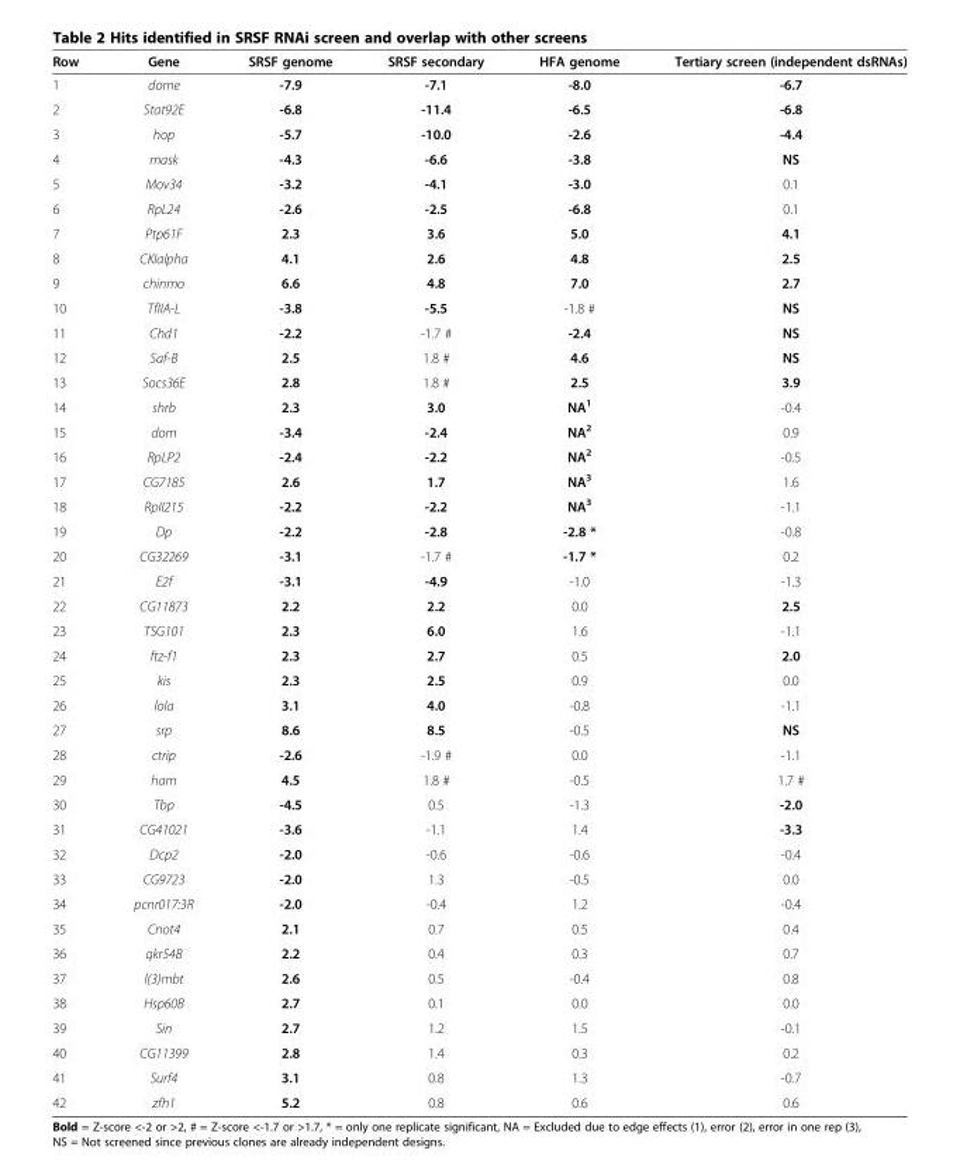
<table><thead><tr><td>Row</td><td>Gene</td><td>SRSF genome</td><td>SRSF secondary</td><td>HFA genome</td><td>Tertiary screen (independent dsRNAs)</td></tr></thead><tbody><tr><td>1</td><td>dome</td><td>-7.9</td><td>-7.1</td><td>-8.0</td><td>-6.7</td></tr><tr><td>2</td><td>Stat92E</td><td>-6.8</td><td>-11.4</td><td>-6.5</td><td>-6.8</td></tr><tr><td>3</td><td>hop</td><td>-5.7</td><td>-10.0</td><td>-2.6</td><td>-4.4</td></tr><tr><td>4</td><td>mask</td><td>-4.3</td><td>-6.6</td><td>-3.8</td><td>NS</td></tr><tr><td>5</td><td>Mov34</td><td>-3.2</td><td>-4.1</td><td>-3.0</td><td>0.1</td></tr><tr><td>6</td><td>RpL24</td><td>-2.6</td><td>-2.5</td><td>-6.8</td><td>0.1</td></tr><tr><td>7</td><td>Ptp61F</td><td>2.3</td><td>3.6</td><td>5.0</td><td>4.1</td></tr><tr><td>8</td><td>CKIalpha</td><td>4.1</td><td>2.6</td><td>4.8</td><td>2.5</td></tr><tr><td>9</td><td>chinmo</td><td>6.6</td><td>4.8</td><td>7.0</td><td>2.7</td></tr><tr><td>10</td><td>TfIIA-L</td><td>-3.8</td><td>-5.5</td><td>-1.8 #</td><td>NS</td></tr><tr><td>11</td><td>Chd1</td><td>-2.2</td><td>-1.7 #</td><td>-2.4</td><td>NS</td></tr><tr><td>12</td><td>Saf-B</td><td>2.5</td><td>1.8 #</td><td>4.6</td><td>NS</td></tr><tr><td>13</td><td>Socs36E</td><td>2.8</td><td>1.8 #</td><td>2.5</td><td>3.9</td></tr><tr><td>14</td><td>shrb</td><td>2.3</td><td>3.0</td><td>NA<sup>1</sup></td><td>-0.4</td></tr><tr><td>15</td><td>dom</td><td>-3.4</td><td>-2.4</td><td>NA<sup>2</sup></td><td>0.9</td></tr><tr><td>16</td><td>RpLP2</td><td>-2.4</td><td>-2.2</td><td>NA<sup>2</sup></td><td>-0.5</td></tr><tr><td>17</td><td>CG7185</td><td>2.6</td><td>1.7</td><td>NA<sup>3</sup></td><td>1.6</td></tr><tr><td>18</td><td>RpII215</td><td>-2.2</td><td>-2.2</td><td>NA<sup>3</sup></td><td>-1.1</td></tr><tr><td>19</td><td>Dp</td><td>-2.2</td><td>-2.8</td><td>-2.8 *</td><td>-0.8</td></tr><tr><td>20</td><td>CG32269</td><td>-3.1</td><td>-1.7 #</td><td>-1.7 *</td><td>0.2</td></tr><tr><td>21</td><td>E2f</td><td>-3.1</td><td>-4.9</td><td>-1.0</td><td>-1.3</td></tr><tr><td>22</td><td>CG11873</td><td>2.2</td><td>2.2</td><td>0.0</td><td>2.5</td></tr><tr><td>23</td><td>TSG101</td><td>2.3</td><td>6.0</td><td>1.6</td><td>-1.1</td></tr><tr><td>24</td><td>ftz-f1</td><td>2.3</td><td>2.7</td><td>0.5</td><td>2.0</td></tr><tr><td>25</td><td>kis</td><td>2.3</td><td>2.5</td><td>0.9</td><td>0.0</td></tr><tr><td>26</td><td>lola</td><td>3.1</td><td>4.0</td><td>-0.8</td><td>-1.1</td></tr><tr><td>27</td><td>srp</td><td>8.6</td><td>8.5</td><td>-0.5</td><td>NS</td></tr><tr><td>28</td><td>ctrip</td><td>-2.6</td><td>-1.9 #</td><td>0.0</td><td>-1.1</td></tr><tr><td>29</td><td>ham</td><td>4.5</td><td>1.8 #</td><td>-0.5</td><td>1.7 #</td></tr><tr><td>30</td><td>Tbp</td><td>-4.5</td><td>0.5</td><td>-1.3</td><td>-2.0</td></tr><tr><td>31</td><td>CG41021</td><td>-3.6</td><td>-1.1</td><td>1.4</td><td>-3.3</td></tr><tr><td>32</td><td>Dcp2</td><td>-2.0</td><td>-0.6</td><td>-0.6</td><td>-0.4</td></tr><tr><td>33</td><td>CG9723</td><td>-2.0</td><td>1.3</td><td>-0.5</td><td>0.0</td></tr><tr><td>34</td><td>pcnr017:3R</td><td>-2.0</td><td>-0.4</td><td>1.2</td><td>-0.4</td></tr><tr><td>35</td><td>Cnot4</td><td>2.1</td><td>0.7</td><td>0.5</td><td>0.4</td></tr><tr><td>36</td><td>qkr54B</td><td>2.2</td><td>0.4</td><td>0.3</td><td>0.7</td></tr><tr><td>37</td><td>l(3)mbt</td><td>2.6</td><td>0.5</td><td>-0.4</td><td>0.8</td></tr><tr><td>38</td><td>Hsp60B</td><td>2.7</td><td>0.1</td><td>0.0</td><td>0.0</td></tr><tr><td>39</td><td>Sin</td><td>2.7</td><td>1.2</td><td>1.5</td><td>-0.1</td></tr><tr><td>40</td><td>CG11399</td><td>2.8</td><td>1.4</td><td>0.3</td><td>0.2</td></tr><tr><td>41</td><td>Surf4</td><td>3.1</td><td>0.8</td><td>1.3</td><td>-0.7</td></tr><tr><td>42</td><td>zfh1</td><td>5.2</td><td>0.8</td><td>0.6</td><td>0.6</td></tr></tbody></table>